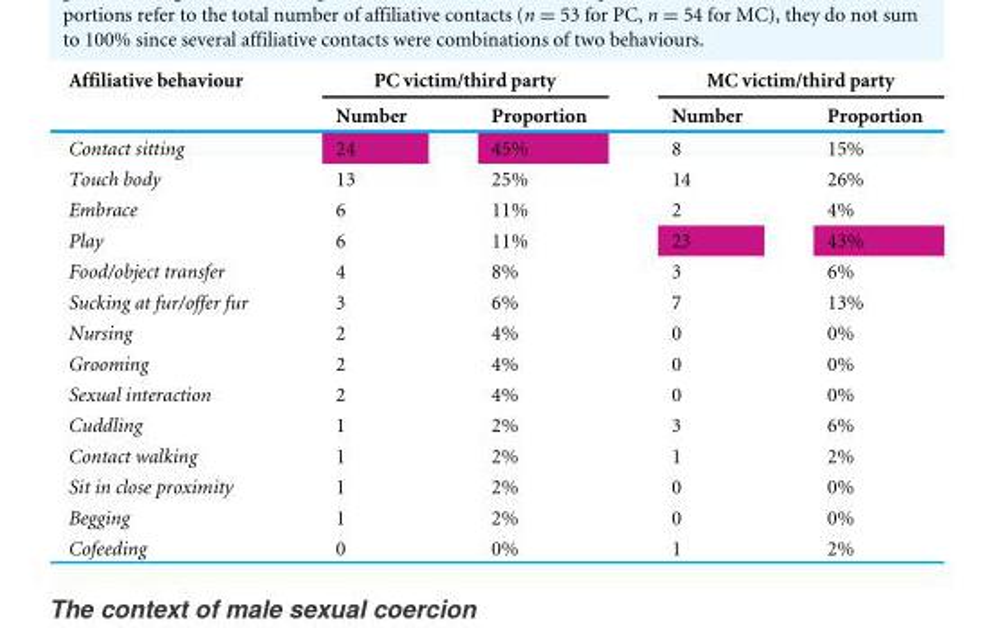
<table><thead><tr><td rowspan="2">Affiliative behaviour</td><td colspan="2">PC victim/third party</td><td colspan="2">MC victim/third party</td></tr><tr><td>Number</td><td>Proportion</td><td>Number</td><td>Proportion</td></tr></thead><tbody><tr><td>Contact sitting</td><td>24</td><td>45%</td><td>8</td><td>15%</td></tr><tr><td>Touch body</td><td>13</td><td>25%</td><td>14</td><td>26%</td></tr><tr><td>Embrace</td><td>6</td><td>11%</td><td>2</td><td>4%</td></tr><tr><td>Play</td><td>6</td><td>11%</td><td>23</td><td>43%</td></tr><tr><td>Food/object transfer</td><td>4</td><td>8%</td><td>3</td><td>6%</td></tr><tr><td>Sucking at fur/offer fur</td><td>3</td><td>6%</td><td>7</td><td>13%</td></tr><tr><td>Nursing</td><td>2</td><td>4%</td><td>0</td><td>0%</td></tr><tr><td>Grooming</td><td>2</td><td>4%</td><td>0</td><td>0%</td></tr><tr><td>Sexual interaction</td><td>2</td><td>4%</td><td>0</td><td>0%</td></tr><tr><td>Cuddling</td><td>1</td><td>2%</td><td>3</td><td>6%</td></tr><tr><td>Contact walking</td><td>1</td><td>2%</td><td>1</td><td>2%</td></tr><tr><td>Sit in close proximity</td><td>1</td><td>2%</td><td>0</td><td>0%</td></tr><tr><td>Begging</td><td>1</td><td>2%</td><td>0</td><td>0%</td></tr><tr><td>Cofeeding</td><td>0</td><td>0%</td><td>1</td><td>2%</td></tr></tbody></table>